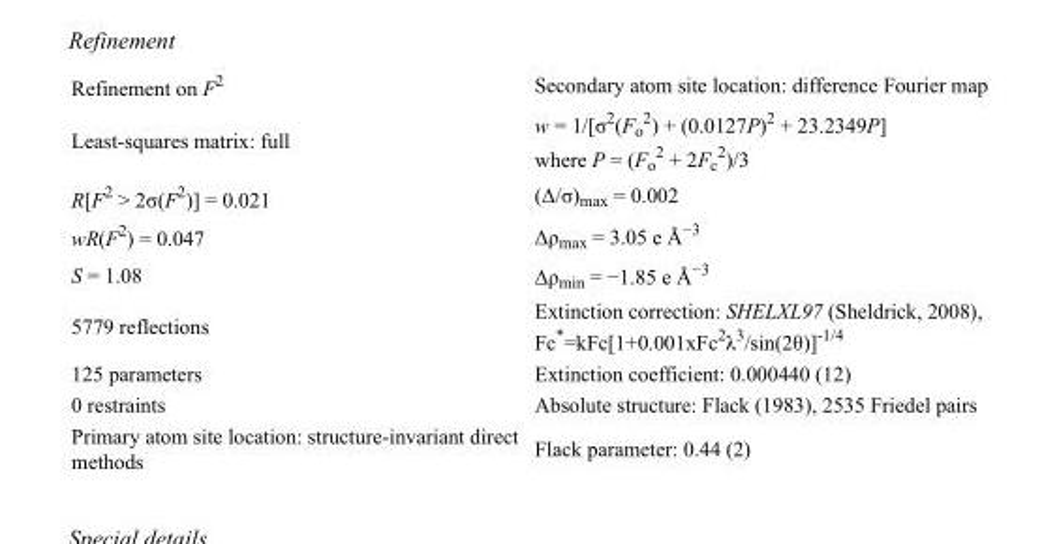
<table><tbody><tr><td>Refinement on F<sup>2</sup></td><td>Secondary atom site location: difference Fourier map</td></tr><tr><td>Least-squares matrix: full</td><td>w = 1/[σ<sup>2</sup>(F<sub>o</sub> <sup>2</sup>) + (0.0127P)<sup>2</sup> + 23.2349P] where P = (F<sub>o</sub> <sup>2</sup> + 2F<sub>c</sub> <sup>2</sup>)/3</td></tr><tr><td>R[F<sup>2</sup> &gt; 2σ(F<sup>2</sup>)] = 0.021</td><td>(Δ/σ)<sub>max</sub> = 0.002</td></tr><tr><td>wR(F<sup>2</sup>) = 0.047</td><td>Δρ<sub>max</sub> = 3.05 e Å<sup>−3</sup></td></tr><tr><td>S = 1.08</td><td>Δρ<sub>min</sub> = −1.85 e Å<sup>−3</sup></td></tr><tr><td>5779 reflections</td><td>Extinction correction: SHELXL97 (Sheldrick, 2008), Fc*=kFc[1+0.001xFc<sup>2</sup>λ<sup>3</sup>/sin(2θ)]<sup>-1/4</sup></td></tr><tr><td>125 parameters</td><td>Extinction coefficient: 0.000440 (12)</td></tr><tr><td>0 restraints</td><td>Absolute structure: Flack (1983), 2535 Friedel pairs</td></tr><tr><td>Primary atom site location: structure-invariant direct methods</td><td>Flack parameter: 0.44 (2)</td></tr></tbody></table>